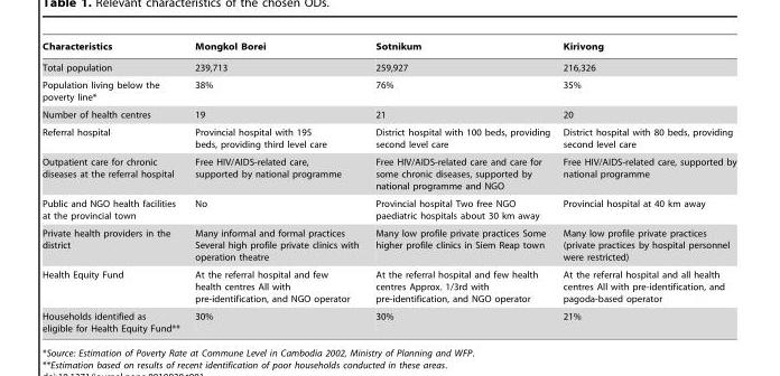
<table><thead><tr><td>Characteristics</td><td>Mongkol Borei</td><td>Sotnikum</td><td>Kirivong</td></tr></thead><tbody><tr><td>Total population</td><td>239,713</td><td>259,927</td><td>216,326</td></tr><tr><td>Population living below the poverty line*</td><td>38%</td><td>76%</td><td>35%</td></tr><tr><td>Number of health centres</td><td>19</td><td>21</td><td>20</td></tr><tr><td>Referral hospital</td><td>Provincial hospital with 195 beds, providing third level care</td><td>District hospital with 100 beds, providing second level care</td><td>District hospital with 80 beds, providing second level care</td></tr><tr><td>Outpatient care for chronic diseases at the referral hospital</td><td>Free HIV/AIDS-related care, supported by national programme</td><td>Free HIV/AIDS-related care and care for some chronic diseases, supported by national programme and NGO</td><td>Free HIV/AIDS-related care, supported by national programme</td></tr><tr><td>Public and NGO health facilities at the provincial town</td><td>No</td><td>Provincial hospital Two free NGO paediatric hospitals about 30 km away</td><td>Provincial hospital at 40 km away</td></tr><tr><td>Private health providers in the district</td><td>Many informal and formal practices Several high profile private clinics with operation theatre</td><td>Many low profile private practices Some higher profile clinics in Siem Reap town</td><td>Many low profile private practices (private practices by hospital personnel were restricted)</td></tr><tr><td>Health Equity Fund</td><td>At the referral hospital and few health centres All with pre-identification, and NGO operator</td><td>At the referral hospital and few health centres Approx. 1/3rd with pre-identification, and NGO operator</td><td>At the referral hospital and all health centres All with pre-identification, and pagoda-based operator</td></tr><tr><td>Households identified as eligible for Health Equity Fund**</td><td>30%</td><td>30%</td><td>21%</td></tr></tbody></table>